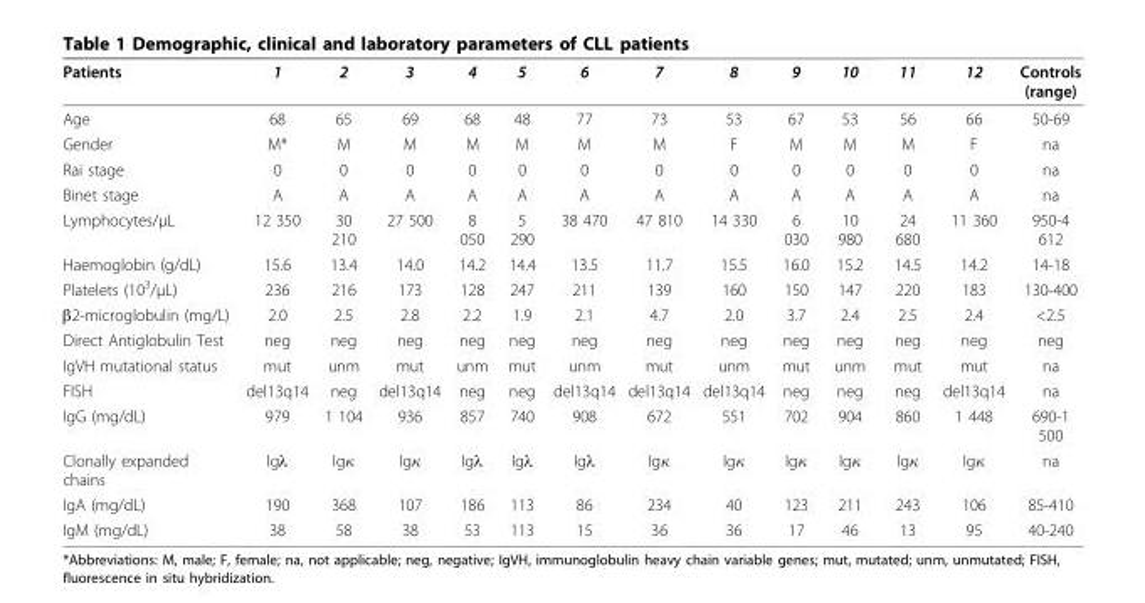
<table><thead><tr><td>Patients</td><td>1</td><td>2</td><td>3</td><td>4</td><td>5</td><td>6</td><td>7</td><td>8</td><td>9</td><td>10</td><td>11</td><td>12</td><td>Controls (range)</td></tr></thead><tbody><tr><td>Age</td><td>68</td><td>65</td><td>69</td><td>68</td><td>48</td><td>77</td><td>73</td><td>53</td><td>67</td><td>53</td><td>56</td><td>66</td><td>50-69</td></tr><tr><td>Gender</td><td>M*</td><td>M</td><td>M</td><td>M</td><td>M</td><td>M</td><td>M</td><td>F</td><td>M</td><td>M</td><td>M</td><td>F</td><td>na</td></tr><tr><td>Rai stage</td><td>0</td><td>0</td><td>0</td><td>0</td><td>0</td><td>0</td><td>0</td><td>0</td><td>0</td><td>0</td><td>0</td><td>0</td><td>na</td></tr><tr><td>Binet stage</td><td>A</td><td>A</td><td>A</td><td>A</td><td>A</td><td>A</td><td>A</td><td>A</td><td>A</td><td>A</td><td>A</td><td>A</td><td>na</td></tr><tr><td>Lymphocytes/μL</td><td>12 350</td><td>30 210</td><td>27 500</td><td>8 050</td><td>5 290</td><td>38 470</td><td>47 810</td><td>14 330</td><td>6 030</td><td>10 980</td><td>24 680</td><td>11 360</td><td>950-4 612</td></tr><tr><td>Haemoglobin (g/dL)</td><td>15.6</td><td>13.4</td><td>14.0</td><td>14.2</td><td>14.4</td><td>13.5</td><td>11.7</td><td>15.5</td><td>16.0</td><td>15.2</td><td>14.5</td><td>14.2</td><td>14-18</td></tr><tr><td>Platelets (10<sup>3</sup>/μL)</td><td>236</td><td>216</td><td>173</td><td>128</td><td>247</td><td>211</td><td>139</td><td>160</td><td>150</td><td>147</td><td>220</td><td>183</td><td>130-400</td></tr><tr><td>β2-microglobulin (mg/L)</td><td>2.0</td><td>2.5</td><td>2.8</td><td>2.2</td><td>1.9</td><td>2.1</td><td>4.7</td><td>2.0</td><td>3.7</td><td>2.4</td><td>2.5</td><td>2.4</td><td>&lt;2.5</td></tr><tr><td>Direct Antiglobulin Test</td><td>neg</td><td>neg</td><td>neg</td><td>neg</td><td>neg</td><td>neg</td><td>neg</td><td>neg</td><td>neg</td><td>neg</td><td>neg</td><td>neg</td><td>neg</td></tr><tr><td>IgVH mutational status</td><td>mut</td><td>unm</td><td>mut</td><td>unm</td><td>mut</td><td>unm</td><td>mut</td><td>unm</td><td>mut</td><td>unm</td><td>mut</td><td>mut</td><td>na</td></tr><tr><td>FISH</td><td>del13q14</td><td>neg</td><td>del13q14</td><td>neg</td><td>neg</td><td>del13q14</td><td>del13q14</td><td>del13q14</td><td>neg</td><td>neg</td><td>neg</td><td>del13q14</td><td>na</td></tr><tr><td>IgG (mg/dL)</td><td>979</td><td>1 104</td><td>936</td><td>857</td><td>740</td><td>908</td><td>672</td><td>551</td><td>702</td><td>904</td><td>860</td><td>1 448</td><td>690-1 500</td></tr><tr><td>Clonally expanded chains</td><td>Igλ</td><td>Igκ</td><td>Igκ</td><td>Igλ</td><td>Igλ</td><td>Igλ</td><td>Igκ</td><td>Igκ</td><td>Igκ</td><td>Igκ</td><td>Igκ</td><td>Igκ</td><td>na</td></tr><tr><td>IgA (mg/dL)</td><td>190</td><td>368</td><td>107</td><td>186</td><td>113</td><td>86</td><td>234</td><td>40</td><td>123</td><td>211</td><td>243</td><td>106</td><td>85-410</td></tr><tr><td>IgM (mg/dL)</td><td>38</td><td>58</td><td>38</td><td>53</td><td>113</td><td>15</td><td>36</td><td>36</td><td>17</td><td>46</td><td>13</td><td>95</td><td>40-240</td></tr></tbody></table>